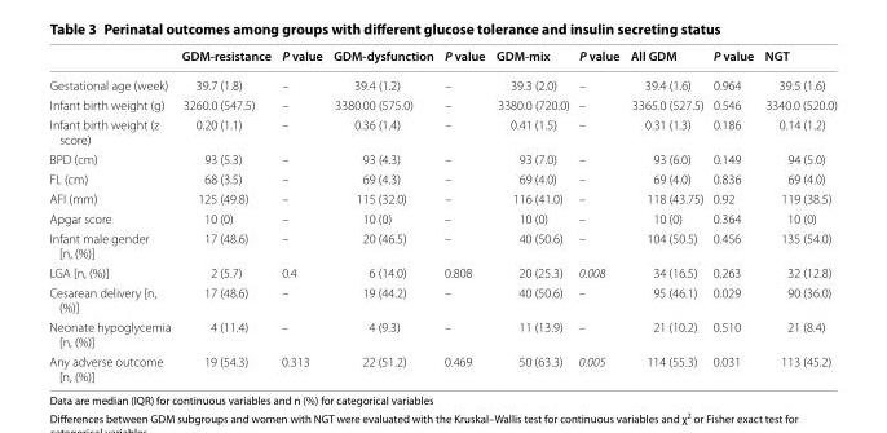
<table><thead><tr><td></td><td>GDM-resistance</td><td>P value</td><td>GDM-dysfunction</td><td>P value</td><td>GDM-mix</td><td>P value</td><td>All GDM</td><td>P value</td><td>NGT</td></tr></thead><tbody><tr><td>Gestational age (week)</td><td>39.7 (1.8)</td><td>–</td><td>39.4 (1.2)</td><td>–</td><td>39.3 (2.0)</td><td>–</td><td>39.4 (1.6)</td><td>0.964</td><td>39.5 (1.6)</td></tr><tr><td>Infant birth weight (g)</td><td>3260.0 (547.5)</td><td>–</td><td>3380.00 (575.0)</td><td>–</td><td>3380.0 (720.0)</td><td>–</td><td>3365.0 (527.5)</td><td>0.546</td><td>3340.0 (520.0)</td></tr><tr><td>Infant birth weight (z score)</td><td>0.20 (1.1)</td><td>–</td><td>0.36 (1.4)</td><td>–</td><td>0.41 (1.5)</td><td>–</td><td>0.31 (1.3)</td><td>0.186</td><td>0.14 (1.2)</td></tr><tr><td>BPD (cm)</td><td>93 (5.3)</td><td>–</td><td>93 (4.3)</td><td>–</td><td>93 (7.0)</td><td>–</td><td>93 (6.0)</td><td>0.149</td><td>94 (5.0)</td></tr><tr><td>FL (cm)</td><td>68 (3.5)</td><td>–</td><td>69 (4.3)</td><td>–</td><td>69 (4.0)</td><td>–</td><td>69 (4.0)</td><td>0.836</td><td>69 (4.0)</td></tr><tr><td>AFI (mm)</td><td>125 (49.8)</td><td>–</td><td>115 (32.0)</td><td>–</td><td>116 (41.0)</td><td>–</td><td>118 (43.75)</td><td>0.92</td><td>119 (38.5)</td></tr><tr><td>Apgar score</td><td>10 (0)</td><td>–</td><td>10 (0)</td><td>–</td><td>10 (0)</td><td>–</td><td>10 (0)</td><td>0.364</td><td>10 (0)</td></tr><tr><td>Infant male gender [n, (%)]</td><td>17 (48.6)</td><td>–</td><td>20 (46.5)</td><td>–</td><td>40 (50.6)</td><td>–</td><td>104 (50.5)</td><td>0.456</td><td>135 (54.0)</td></tr><tr><td>LGA [n, (%)]</td><td>2 (5.7)</td><td>0.4</td><td>6 (14.0)</td><td>0.808</td><td>20 (25.3)</td><td>0.008</td><td>34 (16.5)</td><td>0.263</td><td>32 (12.8)</td></tr><tr><td>Cesarean delivery [n, (%)]</td><td>17 (48.6)</td><td>–</td><td>19 (44.2)</td><td>–</td><td>40 (50.6)</td><td>–</td><td>95 (46.1)</td><td>0.029</td><td>90 (36.0)</td></tr><tr><td>Neonate hypoglycemia [n, (%)]</td><td>4 (11.4)</td><td>–</td><td>4 (9.3)</td><td>–</td><td>11 (13.9)</td><td>–</td><td>21 (10.2)</td><td>0.510</td><td>21 (8.4)</td></tr><tr><td>Any adverse outcome [n, (%)]</td><td>19 (54.3)</td><td>0.313</td><td>22 (51.2)</td><td>0.469</td><td>50 (63.3)</td><td>0.005</td><td>114 (55.3)</td><td>0.031</td><td>113 (45.2)</td></tr></tbody></table>